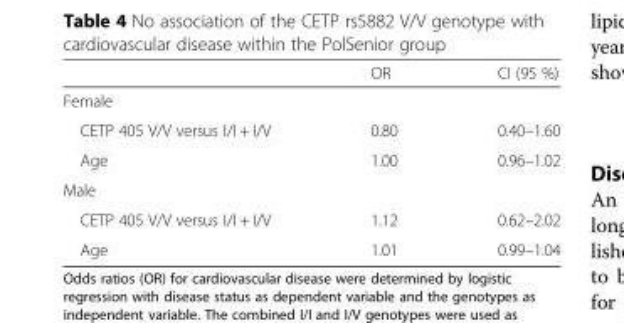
<table><thead><tr><td></td><td>OR</td><td>CI (95 %)</td></tr></thead><tbody><tr><td colspan="3">Female</td></tr><tr><td>CETP 405 V/V versus I/I + I/V</td><td>0.80</td><td>0.40–1.60</td></tr><tr><td>Age</td><td>1.00</td><td>0.96–1.02</td></tr><tr><td colspan="3">Male</td></tr><tr><td>CETP 405 V/V versus I/I + I/V</td><td>1.12</td><td>0.62–2.02</td></tr><tr><td>Age</td><td>1.01</td><td>0.99–1.04</td></tr></tbody></table>